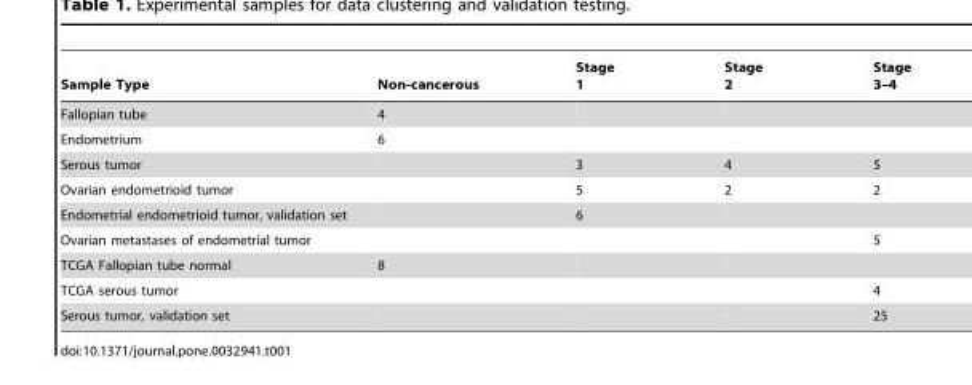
<table><thead><tr><td>Sample Type</td><td>Non-cancerous</td><td>Stage 1</td><td>Stage 2</td><td>Stage 3–4</td></tr></thead><tbody><tr><td>Fallopian tube</td><td>4</td><td></td><td></td><td></td></tr><tr><td>Endometrium</td><td>6</td><td></td><td></td><td></td></tr><tr><td>Serous tumor</td><td></td><td>3</td><td>4</td><td>5</td></tr><tr><td>Ovarian endometrioid tumor</td><td></td><td>5</td><td>2</td><td>2</td></tr><tr><td>Endometrial endometrioid tumor, validation set</td><td></td><td>6</td><td></td><td></td></tr><tr><td>Ovarian metastases of endometrial tumor</td><td></td><td></td><td></td><td>5</td></tr><tr><td>TCGA Fallopian tube normal</td><td>8</td><td></td><td></td><td></td></tr><tr><td>TCGA serous tumor</td><td></td><td></td><td></td><td>4</td></tr><tr><td>Serous tumor, validation set</td><td></td><td></td><td></td><td>25</td></tr></tbody></table>